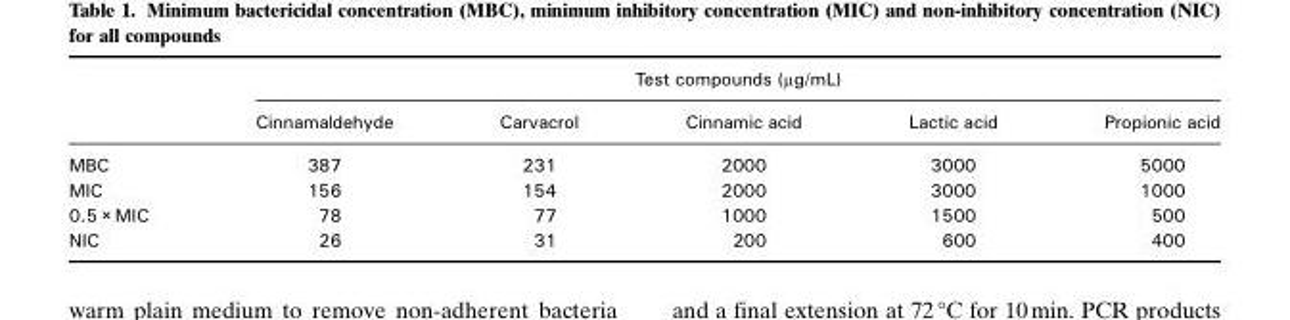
<table><thead><tr><td rowspan="2"></td><td colspan="5">Test compounds (μg/mL)</td></tr><tr><td>Cinnamaldehyde</td><td>Carvacrol</td><td>Cinnamic acid</td><td>Lactic acid</td><td>Propionic acid</td></tr></thead><tbody><tr><td>MBC</td><td>387</td><td>231</td><td>2000</td><td>3000</td><td>5000</td></tr><tr><td>MIC</td><td>156</td><td>154</td><td>2000</td><td>3000</td><td>1000</td></tr><tr><td>0.5 × MIC</td><td>78</td><td>77</td><td>1000</td><td>1500</td><td>500</td></tr><tr><td>NIC</td><td>26</td><td>31</td><td>200</td><td>600</td><td>400</td></tr></tbody></table>